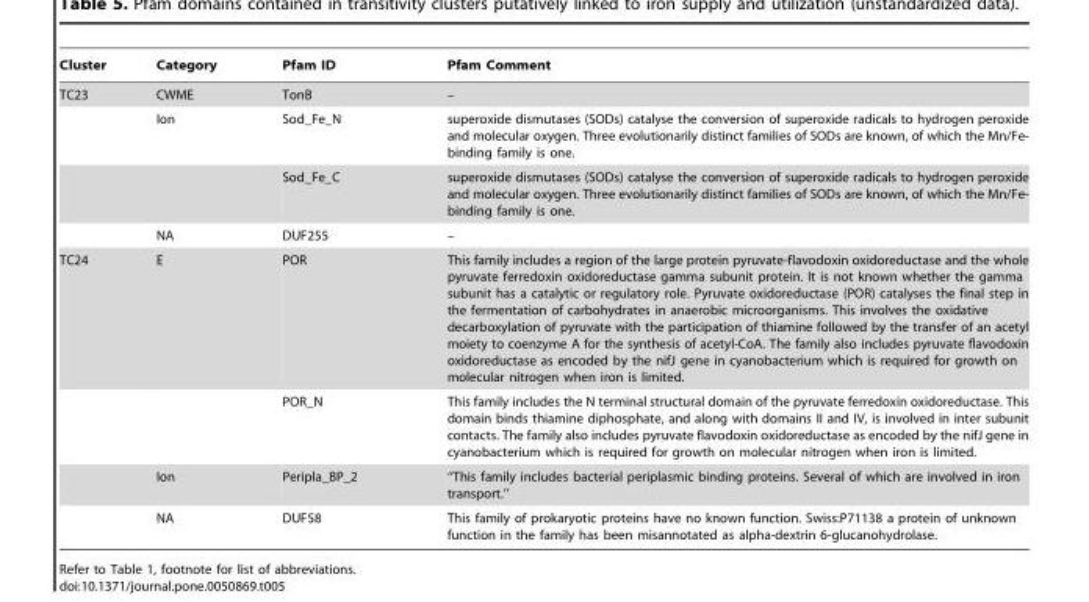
<table><thead><tr><td>Cluster</td><td>Category</td><td>Pfam ID</td><td>Pfam Comment</td></tr></thead><tbody><tr><td rowspan="4">TC23</td><td>CWME</td><td>TonB</td><td>–</td></tr><tr><td>Ion</td><td>Sod_Fe_N</td><td>superoxide dismutases (SODs) catalyse the conversion of superoxide radicals to hydrogen peroxide and molecular oxygen. Three evolutionarily distinct families of SODs are known, of which the Mn/Fe- binding family is one.</td></tr><tr><td></td><td>Sod_Fe_C</td><td>superoxide dismutases (SODs) catalyse the conversion of superoxide radicals to hydrogen peroxide and molecular oxygen. Three evolutionarily distinct families of SODs are known, of which the Mn/Fe- binding family is one.</td></tr><tr><td>NA</td><td>DUF255</td><td>–</td></tr><tr><td rowspan="4">TC24</td><td>E</td><td>POR</td><td>This family includes a region of the large protein pyruvate-flavodoxin oxidoreductase and the whole pyruvate ferredoxin oxidoreductase gamma subunit protein. It is not known whether the gamma subunit has a catalytic or regulatory role. Pyruvate oxidoreductase (POR) catalyses the final step in the fermentation of carbohydrates in anaerobic microorganisms. This involves the oxidative decarboxylation of pyruvate with the participation of thiamine followed by the transfer of an acetyl moiety to coenzyme A for the synthesis of acetyl-CoA. The family also includes pyruvate flavodoxin oxidoreductase as encoded by the nifJ gene in cyanobacterium which is required for growth on molecular nitrogen when iron is limited.</td></tr><tr><td></td><td>POR_N</td><td>This family includes the N terminal structural domain of the pyruvate ferredoxin oxidoreductase. This domain binds thiamine diphosphate, and along with domains II and IV, is involved in inter subunit contacts. The family also includes pyruvate flavodoxin oxidoreductase as encoded by the nifJ gene in cyanobacterium which is required for growth on molecular nitrogen when iron is limited.</td></tr><tr><td>Ion</td><td>Peripla_BP_2</td><td>‘‘This family includes bacterial periplasmic binding proteins. Several of which are involved in iron transport.’’</td></tr><tr><td>NA</td><td>DUF58</td><td>This family of prokaryotic proteins have no known function. Swiss:P71138 a protein of unknown function in the family has been misannotated as alpha-dextrin 6-glucanohydrolase.</td></tr></tbody></table>